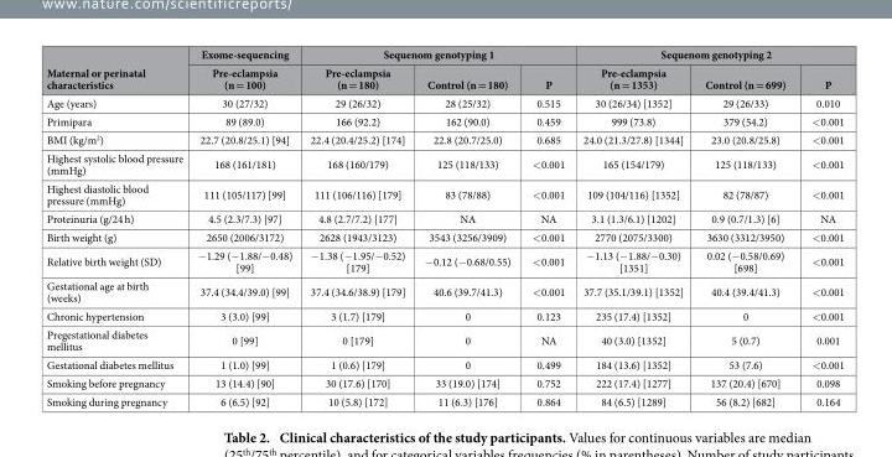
<table><thead><tr><td rowspan="2">Maternal or perinatal characteristics</td><td rowspan="2">Exome-sequencing Pre-eclampsia (n = 100)</td><td colspan="3">Sequenom genotyping 1</td><td colspan="3">Sequenom genotyping 2</td></tr><tr><td>Pre-eclampsia (n = 180)</td><td>Control (n = 180)</td><td>P</td><td>Pre-eclampsia (n = 1353)</td><td>Control (n = 699)</td><td>P</td></tr></thead><tbody><tr><td>Age (years)</td><td>30 (27/32)</td><td>29 (26/32)</td><td>28 (25/32)</td><td>0.515</td><td>30 (26/34) [1352]</td><td>29 (26/33)</td><td>0.010</td></tr><tr><td>Primipara</td><td>89 (89.0)</td><td>166 (92.2)</td><td>162 (90.0)</td><td>0.459</td><td>999 (73.8)</td><td>379 (54.2)</td><td>&lt; 0.001</td></tr><tr><td>BMI (kg/m<sup>2</sup>)</td><td>22.7 (20.8/25.1) [94]</td><td>22.4 (20.4/25.2) [174]</td><td>22.8 (20.7/25.0)</td><td>0.685</td><td>24.0 (21.3/27.8) [1344]</td><td>23.0 (20.8/25.8)</td><td>&lt; 0.001</td></tr><tr><td>Highest systolic blood pressure (mmHg)</td><td>168 (161/181)</td><td>168 (160/179)</td><td>125 (118/133)</td><td>&lt; 0.001</td><td>165 (154/179)</td><td>125 (118/133)</td><td>&lt; 0.001</td></tr><tr><td>Highest diastolic blood pressure (mmHg)</td><td>111 (105/117) [99]</td><td>111 (106/116) [179]</td><td>83 (78/88)</td><td>&lt; 0.001</td><td>109 (104/116) [1352]</td><td>82 (78/87)</td><td>&lt; 0.001</td></tr><tr><td>Proteinuria (g/24 h)</td><td>4.5 (2.3/7.3) [97]</td><td>4.8 (2.7/7.2) [177]</td><td>NA</td><td>NA</td><td>3.1 (1.3/6.1) [1202]</td><td>0.9 (0.7/1.3) [6]</td><td>NA</td></tr><tr><td>Birth weight (g)</td><td>2650 (2006/3172)</td><td>2628 (1943/3123)</td><td>3543 (3256/3909)</td><td>&lt; 0.001</td><td>2770 (2075/3300)</td><td>3630 (3312/3950)</td><td>&lt; 0.001</td></tr><tr><td>Relative birth weight (SD)</td><td>− 1.29 (− 1.88/− 0.48) [99]</td><td>− 1.38 (− 1.95/− 0.52) [179]</td><td>− 0.12 (− 0.68/0.55)</td><td>&lt; 0.001</td><td>− 1.13 (− 1.88/− 0.30) [1351]</td><td>0.02 (− 0.58/0.69) [698]</td><td>&lt; 0.001</td></tr><tr><td>Gestational age at birth (weeks)</td><td>37.4 (34.4/39.0) [99]</td><td>37.4 (34.6/38.9) [179]</td><td>40.6 (39.7/41.3)</td><td>&lt; 0.001</td><td>37.7 (35.1/39.1) [1352]</td><td>40.4 (39.4/41.3)</td><td>&lt; 0.001</td></tr><tr><td>Chronic hypertension</td><td>3 (3.0) [99]</td><td>3 (1.7) [179]</td><td>0</td><td>0.123</td><td>235 (17.4) [1352]</td><td>0</td><td>&lt; 0.001</td></tr><tr><td>Pregestational diabetes mellitus</td><td>0 [99]</td><td>0 [179]</td><td>0</td><td>NA</td><td>40 (3.0) [1352]</td><td>5 (0.7)</td><td>0.001</td></tr><tr><td>Gestational diabetes mellitus</td><td>1 (1.0) [99]</td><td>1 (0.6) [179]</td><td>0</td><td>0.499</td><td>184 (13.6) [1352]</td><td>53 (7.6)</td><td>&lt; 0.001</td></tr><tr><td>Smoking before pregnancy</td><td>13 (14.4) [90]</td><td>30 (17.6) [170]</td><td>33 (19.0) [174]</td><td>0.752</td><td>222 (17.4) [1277]</td><td>137 (20.4) [670]</td><td>0.098</td></tr><tr><td>Smoking during pregnancy</td><td>6 (6.5) [92]</td><td>10 (5.8) [172]</td><td>11 (6.3) [176]</td><td>0.864</td><td>84 (6.5) [1289]</td><td>56 (8.2) [682]</td><td>0.164</td></tr></tbody></table>